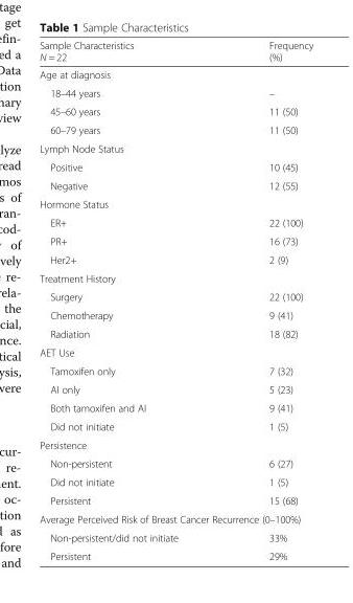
<table><thead><tr><td>Sample Characteristics N = 22</td><td>Frequency (%)</td></tr></thead><tbody><tr><td colspan="2">Age at diagnosis</td></tr><tr><td>18–44 years</td><td>–</td></tr><tr><td>45–60 years</td><td>11 (50)</td></tr><tr><td>60–79 years</td><td>11 (50)</td></tr><tr><td colspan="2">Lymph Node Status</td></tr><tr><td>Positive</td><td>10 (45)</td></tr><tr><td>Negative</td><td>12 (55)</td></tr><tr><td colspan="2">Hormone Status</td></tr><tr><td>ER+</td><td>22 (100)</td></tr><tr><td>PR+</td><td>16 (73)</td></tr><tr><td>Her2+</td><td>2 (9)</td></tr><tr><td colspan="2">Treatment History</td></tr><tr><td>Surgery</td><td>22 (100)</td></tr><tr><td>Chemotherapy</td><td>9 (41)</td></tr><tr><td>Radiation</td><td>18 (82)</td></tr><tr><td colspan="2">AET Use</td></tr><tr><td>Tamoxifen only</td><td>7 (32)</td></tr><tr><td>AI only</td><td>5 (23)</td></tr><tr><td>Both tamoxifen and AI</td><td>9 (41)</td></tr><tr><td>Did not initiate</td><td>1 (5)</td></tr><tr><td colspan="2">Persistence</td></tr><tr><td>Non-persistent</td><td>6 (27)</td></tr><tr><td>Did not initiate</td><td>1 (5)</td></tr><tr><td>Persistent</td><td>15 (68)</td></tr><tr><td colspan="2">Average Perceived Risk of Breast Cancer Recurrence (0–100%)</td></tr><tr><td>Non-persistent/did not initiate</td><td>33%</td></tr><tr><td>Persistent</td><td>29%</td></tr></tbody></table>